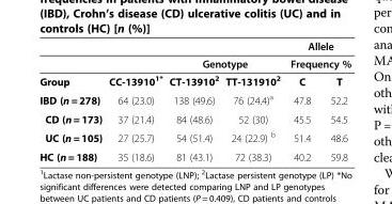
<table><thead><tr><td rowspan="3">Group</td><td rowspan="3">CC-13910<sup>1*</sup></td><td></td><td></td><td rowspan="2" colspan="2">Allele Frequency %</td></tr><tr><td colspan="2">Genotype</td></tr><tr><td>CT-13910<sup>2</sup></td><td>TT-131910<sup>2</sup></td><td>C</td><td>T</td></tr></thead><tbody><tr><td>IBD (n = 278)</td><td>64 (23.0)</td><td>138 (49.6)</td><td>76 (24.4)<sup>a</sup></td><td>47.8</td><td>52.2</td></tr><tr><td>CD (n = 173)</td><td>37 (21.4)</td><td>84 (48.6)</td><td>52 (30)</td><td>45.5</td><td>54.5</td></tr><tr><td>UC (n = 105)</td><td>27 (25.7)</td><td>54 (51.4)</td><td>24 (22.9) <sup>b</sup></td><td>51.4</td><td>48.6</td></tr><tr><td>HC (n = 188)</td><td>35 (18.6)</td><td>81 (43.1)</td><td>72 (38.3)</td><td>40.2</td><td>59.8</td></tr></tbody></table>